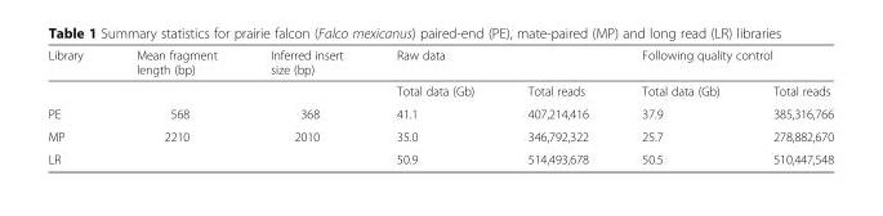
<table><thead><tr><td rowspan="2">Library</td><td rowspan="2">Mean fragment length (bp)</td><td rowspan="2">Inferred insert size (bp)</td><td colspan="2">Raw data</td><td colspan="2">Following quality control</td></tr><tr><td>Total data (Gb)</td><td>Total reads</td><td>Total data (Gb)</td><td>Total reads</td></tr></thead><tbody><tr><td>PE</td><td>568</td><td>368</td><td>41.1</td><td>407,214,416</td><td>37.9</td><td>385,316,766</td></tr><tr><td>MP</td><td>2210</td><td>2010</td><td>35.0</td><td>346,792,322</td><td>25.7</td><td>278,882,670</td></tr><tr><td>LR</td><td></td><td></td><td>50.9</td><td>514,493,678</td><td>50.5</td><td>510,447,548</td></tr></tbody></table>